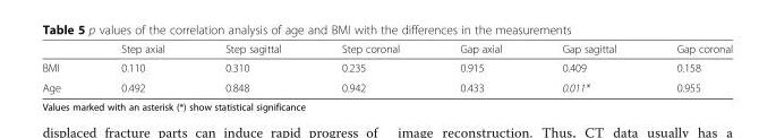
<table><thead><tr><td></td><td>Step axial</td><td>Step sagittal</td><td>Step coronal</td><td>Gap axial</td><td>Gap sagittal</td><td>Gap coronal</td></tr></thead><tbody><tr><td>BMI</td><td>0.110</td><td>0.310</td><td>0.235</td><td>0.915</td><td>0.409</td><td>0.158</td></tr><tr><td>Age</td><td>0.492</td><td>0.848</td><td>0.942</td><td>0.433</td><td>0.011*</td><td>0.955</td></tr></tbody></table>